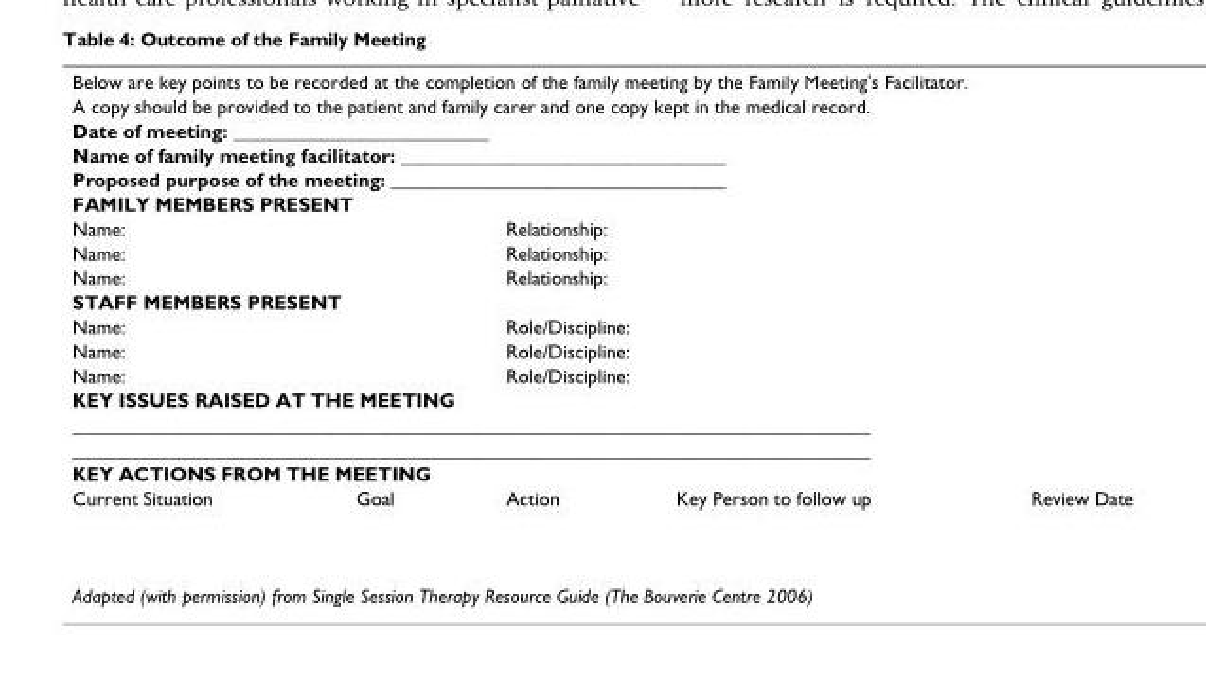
<table><tbody><tr><td colspan="5">Below are key points to be recorded at the completion of the family meeting by the Family Meeting&#x27;s Facilitator.</td></tr><tr><td colspan="5">A copy should be provided to the patient and family carer and one copy kept in the medical record.</td></tr><tr><td colspan="5">Date of meeting: __________________________</td></tr><tr><td colspan="5">Name of family meeting facilitator: _________________________________</td></tr><tr><td colspan="5">Proposed purpose of the meeting: __________________________________</td></tr><tr><td colspan="5">FAMILY MEMBERS PRESENT</td></tr><tr><td colspan="2">Name:</td><td colspan="3">Relationship:</td></tr><tr><td colspan="2">Name:</td><td colspan="3">Relationship:</td></tr><tr><td colspan="2">Name:</td><td colspan="3">Relationship:</td></tr><tr><td colspan="5">STAFF MEMBERS PRESENT</td></tr><tr><td colspan="2">Name:</td><td colspan="3">Role/Discipline:</td></tr><tr><td colspan="2">Name:</td><td colspan="3">Role/Discipline:</td></tr><tr><td colspan="2">Name:</td><td colspan="3">Role/Discipline:</td></tr><tr><td colspan="5">KEY ISSUES RAISED AT THE MEETING</td></tr><tr><td colspan="5">_________________________________________________________________________________</td></tr><tr><td colspan="5">_________________________________________________________________________________</td></tr><tr><td colspan="5">KEY ACTIONS FROM THE MEETING</td></tr><tr><td>Current Situation</td><td>Goal</td><td>Action</td><td>Key Person to follow up</td><td>Review Date</td></tr><tr><td colspan="5">Adapted (with permission) from Single Session Therapy Resource Guide (The Bouverie Centre 2006)</td></tr></tbody></table>